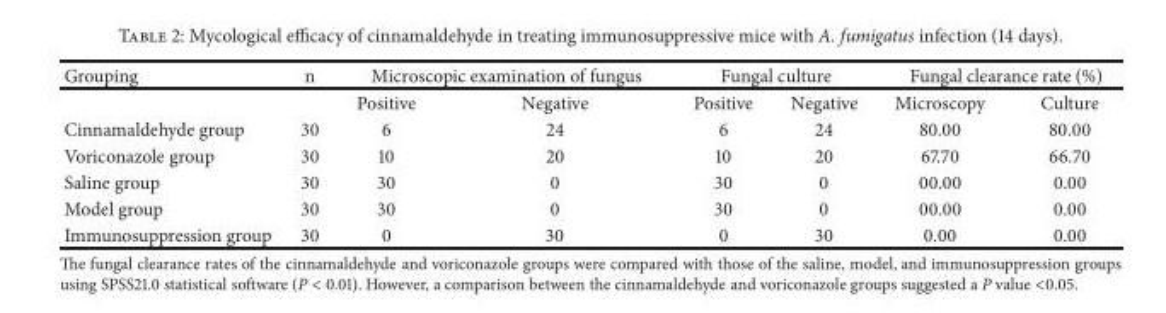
<table><thead><tr><td rowspan="2">Grouping</td><td rowspan="2">n</td><td colspan="2">Microscopic examination of fungus</td><td colspan="2">Fungal culture</td><td colspan="2">Fungal clearance rate (%)</td></tr><tr><td>Positive</td><td>Negative</td><td>Positive</td><td>Negative</td><td>Microscopy</td><td>Culture</td></tr></thead><tbody><tr><td>Cinnamaldehyde group</td><td>30</td><td>6</td><td>24</td><td>6</td><td>24</td><td>80.00</td><td>80.00</td></tr><tr><td>Voriconazole group</td><td>30</td><td>10</td><td>20</td><td>10</td><td>20</td><td>67.70</td><td>66.70</td></tr><tr><td>Saline group</td><td>30</td><td>30</td><td>0</td><td>30</td><td>0</td><td>00.00</td><td>0.00</td></tr><tr><td>Model group</td><td>30</td><td>30</td><td>0</td><td>30</td><td>0</td><td>00.00</td><td>0.00</td></tr><tr><td>Immunosuppression group</td><td>30</td><td>0</td><td>30</td><td>0</td><td>30</td><td>0.00</td><td>0.00</td></tr></tbody></table>